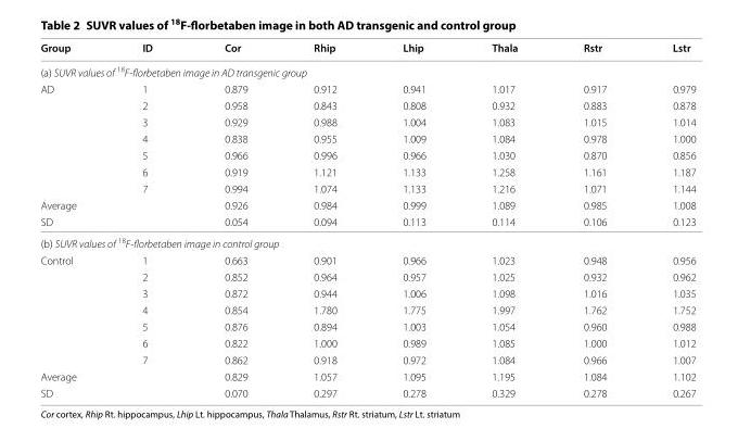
<table><thead><tr><td>Group</td><td>ID</td><td>Cor</td><td>Rhip</td><td>Lhip</td><td>Thala</td><td>Rstr</td><td>Lstr</td></tr></thead><tbody><tr><td colspan="8">(a) SUVR values of <sup>18</sup>F-florbetaben image in AD transgenic group</td></tr><tr><td rowspan="7">AD</td><td>1</td><td>0.879</td><td>0.912</td><td>0.941</td><td>1.017</td><td>0.917</td><td>0.979</td></tr><tr><td>2</td><td>0.958</td><td>0.843</td><td>0.808</td><td>0.932</td><td>0.883</td><td>0.878</td></tr><tr><td>3</td><td>0.929</td><td>0.988</td><td>1.004</td><td>1.083</td><td>1.015</td><td>1.014</td></tr><tr><td>4</td><td>0.838</td><td>0.955</td><td>1.009</td><td>1.084</td><td>0.978</td><td>1.000</td></tr><tr><td>5</td><td>0.966</td><td>0.996</td><td>0.966</td><td>1.030</td><td>0.870</td><td>0.856</td></tr><tr><td>6</td><td>0.919</td><td>1.121</td><td>1.133</td><td>1.258</td><td>1.161</td><td>1.187</td></tr><tr><td>7</td><td>0.994</td><td>1.074</td><td>1.133</td><td>1.216</td><td>1.071</td><td>1.144</td></tr><tr><td>Average</td><td></td><td>0.926</td><td>0.984</td><td>0.999</td><td>1.089</td><td>0.985</td><td>1.008</td></tr><tr><td>SD</td><td></td><td>0.054</td><td>0.094</td><td>0.113</td><td>0.114</td><td>0.106</td><td>0.123</td></tr><tr><td colspan="8">(b) SUVR values of <sup>18</sup>F-florbetaben image in control group</td></tr><tr><td rowspan="7">Control</td><td>1</td><td>0.663</td><td>0.901</td><td>0.966</td><td>1.023</td><td>0.948</td><td>0.956</td></tr><tr><td>2</td><td>0.852</td><td>0.964</td><td>0.957</td><td>1.025</td><td>0.932</td><td>0.962</td></tr><tr><td>3</td><td>0.872</td><td>0.944</td><td>1.006</td><td>1.098</td><td>1.016</td><td>1.035</td></tr><tr><td>4</td><td>0.854</td><td>1.780</td><td>1.775</td><td>1.997</td><td>1.762</td><td>1.752</td></tr><tr><td>5</td><td>0.876</td><td>0.894</td><td>1.003</td><td>1.054</td><td>0.960</td><td>0.988</td></tr><tr><td>6</td><td>0.822</td><td>1.000</td><td>0.989</td><td>1.085</td><td>1.000</td><td>1.012</td></tr><tr><td>7</td><td>0.862</td><td>0.918</td><td>0.972</td><td>1.084</td><td>0.966</td><td>1.007</td></tr><tr><td>Average</td><td></td><td>0.829</td><td>1.057</td><td>1.095</td><td>1.195</td><td>1.084</td><td>1.102</td></tr><tr><td>SD</td><td></td><td>0.070</td><td>0.297</td><td>0.278</td><td>0.329</td><td>0.278</td><td>0.267</td></tr></tbody></table>